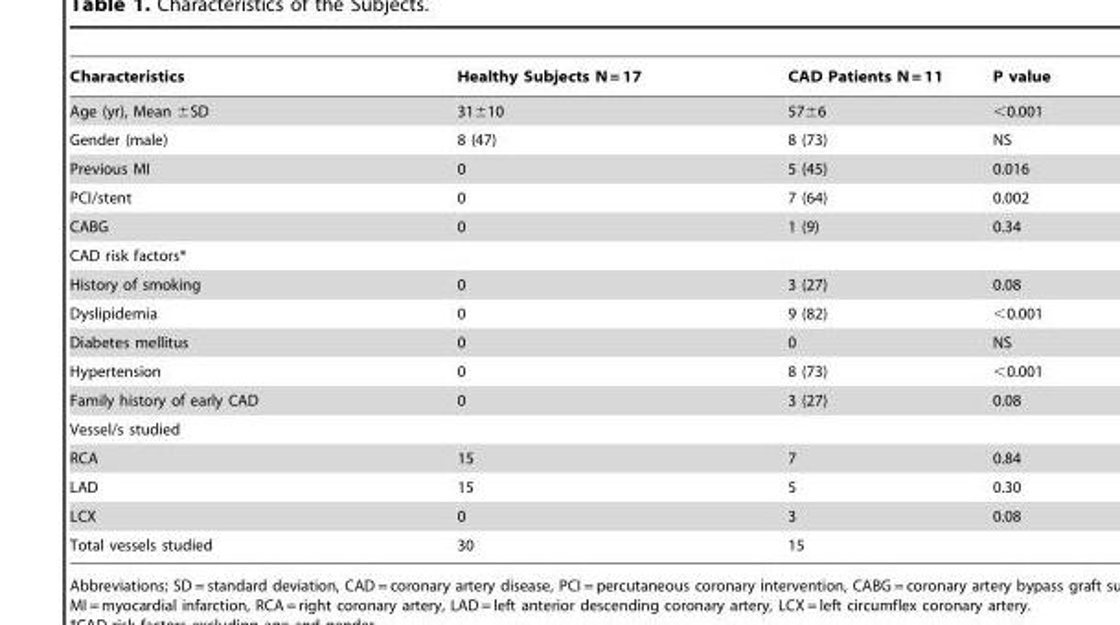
<table><thead><tr><td>Characteristics</td><td>Healthy Subjects N = 17</td><td>CAD Patients N = 11</td><td>P value</td></tr></thead><tbody><tr><td>Age (yr), Mean ±SD</td><td>31±10</td><td>57±6</td><td>&lt;0.001</td></tr><tr><td>Gender (male)</td><td>8 (47)</td><td>8 (73)</td><td>NS</td></tr><tr><td>Previous MI</td><td>0</td><td>5 (45)</td><td>0.016</td></tr><tr><td>PCI/stent</td><td>0</td><td>7 (64)</td><td>0.002</td></tr><tr><td>CABG</td><td>0</td><td>1 (9)</td><td>0.34</td></tr><tr><td colspan="4">CAD risk factors*</td></tr><tr><td>History of smoking</td><td>0</td><td>3 (27)</td><td>0.08</td></tr><tr><td>Dyslipidemia</td><td>0</td><td>9 (82)</td><td>&lt;0.001</td></tr><tr><td>Diabetes mellitus</td><td>0</td><td>0</td><td>NS</td></tr><tr><td>Hypertension</td><td>0</td><td>8 (73)</td><td>&lt;0.001</td></tr><tr><td>Family history of early CAD</td><td>0</td><td>3 (27)</td><td>0.08</td></tr><tr><td colspan="4">Vessel/s studied</td></tr><tr><td>RCA</td><td>15</td><td>7</td><td>0.84</td></tr><tr><td>LAD</td><td>15</td><td>5</td><td>0.30</td></tr><tr><td>LCX</td><td>0</td><td>3</td><td>0.08</td></tr><tr><td>Total vessels studied</td><td>30</td><td>15</td><td></td></tr></tbody></table>